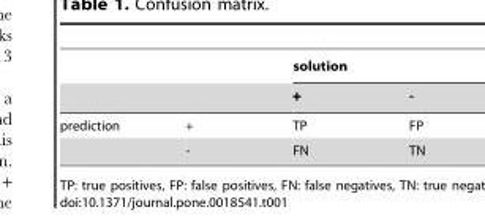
<table><thead><tr><td rowspan="2"></td><td rowspan="2"></td><td colspan="2">solution</td></tr><tr><td>+</td><td>-</td></tr></thead><tbody><tr><td rowspan="2">prediction</td><td>+</td><td>TP</td><td>FP</td></tr><tr><td>-</td><td>FN</td><td>TN</td></tr></tbody></table>